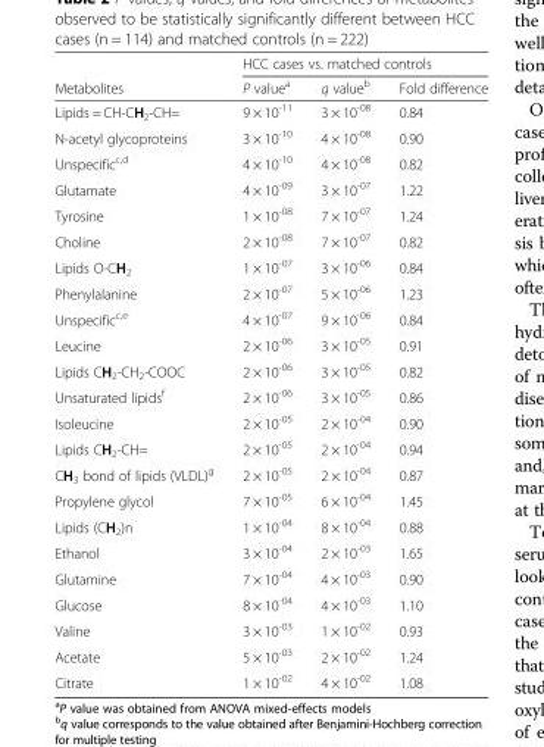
<table><thead><tr><td rowspan="2">Metabolites</td><td colspan="3">HCC cases vs. matched controls</td></tr><tr><td>P value<sup>a</sup></td><td>q value<sup>b</sup></td><td>Fold difference</td></tr></thead><tbody><tr><td>Lipids = CH-CH<sub>2</sub>-CH=</td><td>9 × 10<sup>-11</sup></td><td>3 × 10<sup>-08</sup></td><td>0.84</td></tr><tr><td>N-acetyl glycoproteins</td><td>3 × 10<sup>-10</sup></td><td>4 × 10<sup>-08</sup></td><td>0.90</td></tr><tr><td>Unspecific<sup>c,d</sup></td><td>4 × 10<sup>-10</sup></td><td>4 × 10<sup>-08</sup></td><td>0.82</td></tr><tr><td>Glutamate</td><td>4 × 10<sup>-09</sup></td><td>3 × 10<sup>-07</sup></td><td>1.22</td></tr><tr><td>Tyrosine</td><td>1 × 10<sup>-08</sup></td><td>7 × 10<sup>-07</sup></td><td>1.24</td></tr><tr><td>Choline</td><td>2 × 10<sup>-08</sup></td><td>7 × 10<sup>-07</sup></td><td>0.82</td></tr><tr><td>Lipids O-CH<sub>2</sub></td><td>1 × 10<sup>-07</sup></td><td>3 × 10<sup>-06</sup></td><td>0.84</td></tr><tr><td>Phenylalanine</td><td>2 × 10<sup>-07</sup></td><td>5 × 10<sup>-06</sup></td><td>1.23</td></tr><tr><td>Unspecific<sup>c,e</sup></td><td>4 × 10<sup>-07</sup></td><td>9 × 10<sup>-06</sup></td><td>0.84</td></tr><tr><td>Leucine</td><td>2 × 10<sup>-06</sup></td><td>3 × 10<sup>-05</sup></td><td>0.91</td></tr><tr><td>Lipids CH<sub>2</sub>-CH<sub>2</sub>-COOC</td><td>2 × 10<sup>-06</sup></td><td>3 × 10<sup>-05</sup></td><td>0.82</td></tr><tr><td>Unsaturated lipids<sup>f</sup></td><td>2 × 10<sup>-06</sup></td><td>3 × 10<sup>-05</sup></td><td>0.86</td></tr><tr><td>Isoleucine</td><td>2 × 10<sup>-05</sup></td><td>2 × 10<sup>-04</sup></td><td>0.90</td></tr><tr><td>Lipids CH<sub>2</sub>-CH=</td><td>2 × 10<sup>-05</sup></td><td>2 × 10<sup>-04</sup></td><td>0.94</td></tr><tr><td>CH<sub>3</sub> bond of lipids (VLDL)<sup>g</sup></td><td>2 × 10<sup>-05</sup></td><td>2 × 10<sup>-04</sup></td><td>0.87</td></tr><tr><td>Propylene glycol</td><td>7 × 10<sup>-05</sup></td><td>6 × 10<sup>-04</sup></td><td>1.45</td></tr><tr><td>Lipids (CH<sub>2</sub>)n</td><td>1 × 10<sup>-04</sup></td><td>8 × 10<sup>-04</sup></td><td>0.88</td></tr><tr><td>Ethanol</td><td>3 × 10<sup>-04</sup></td><td>2 × 10<sup>-03</sup></td><td>1.65</td></tr><tr><td>Glutamine</td><td>7 × 10<sup>-04</sup></td><td>4 × 10<sup>-03</sup></td><td>0.90</td></tr><tr><td>Glucose</td><td>8 × 10<sup>-04</sup></td><td>4 × 10<sup>-03</sup></td><td>1.10</td></tr><tr><td>Valine</td><td>3 × 10<sup>-03</sup></td><td>1 × 10<sup>-02</sup></td><td>0.93</td></tr><tr><td>Acetate</td><td>5 × 10<sup>-03</sup></td><td>2 × 10<sup>-02</sup></td><td>1.24</td></tr><tr><td>Citrate</td><td>1 × 10<sup>-02</sup></td><td>4 × 10<sup>-02</sup></td><td>1.08</td></tr></tbody></table>